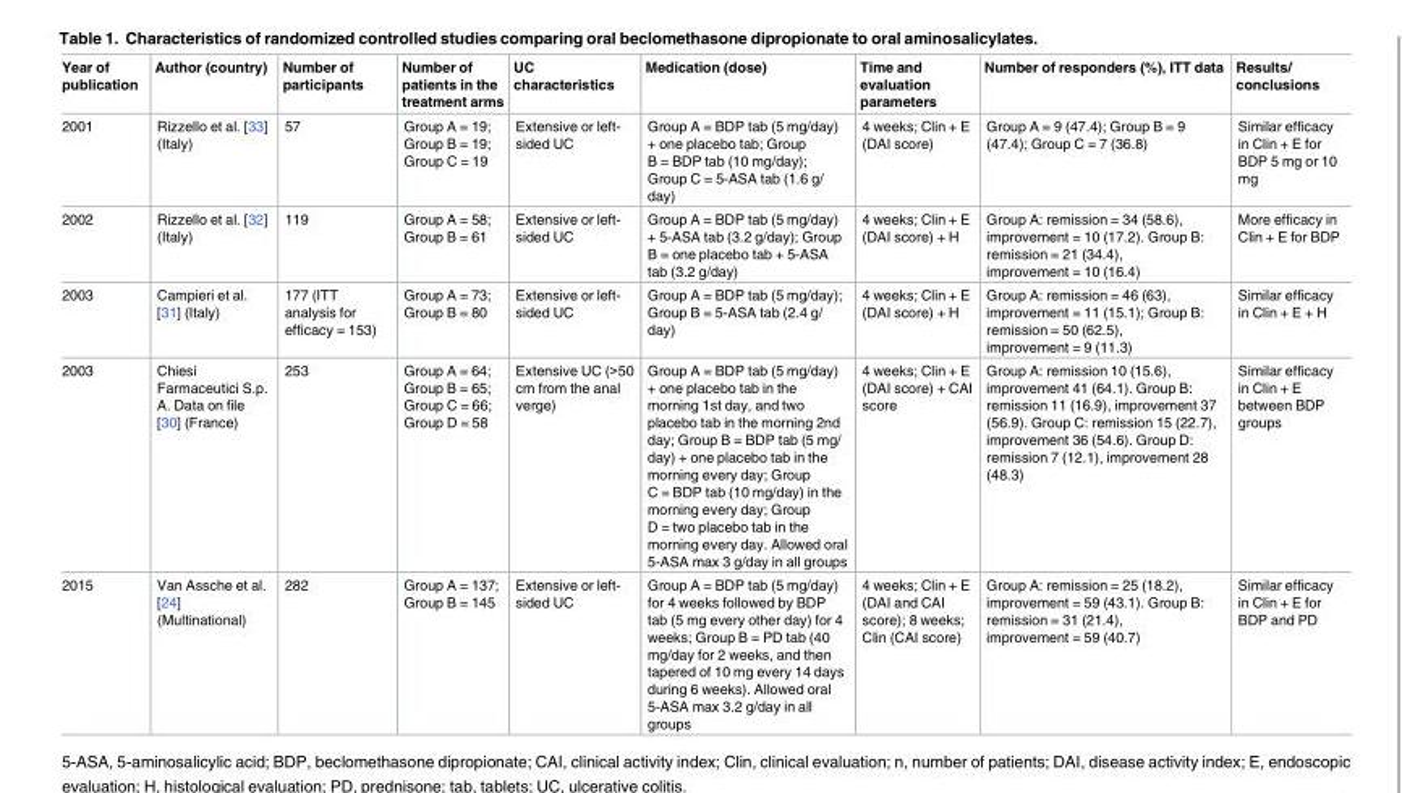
<table><thead><tr><td>Year of publication</td><td>Author (country)</td><td>Number of participants</td><td>Number of patients in the treatment arms</td><td>UC characteristics</td><td>Medication (dose)</td><td>Time and evaluation parameters</td><td>Number of responders (%), ITT data</td><td>Results/ conclusions</td></tr></thead><tbody><tr><td>2001</td><td>Rizzello et al. [33] (Italy)</td><td>57</td><td>Group A = 19; Group B = 19; Group C = 19</td><td>Extensive or left- sided UC</td><td>Group A = BDP tab (5 mg/day) + one placebo tab; Group B = BDP tab (10 mg/day); Group C = 5-ASA tab (1.6 g/ day)</td><td>4 weeks; Clin + E (DAI score)</td><td>Group A = 9 (47.4); Group B = 9 (47.4); Group C = 7 (36.8)</td><td>Similar efficacy in Clin + E for BDP 5 mg or 10 mg</td></tr><tr><td>2002</td><td>Rizzello et al. [32] (Italy)</td><td>119</td><td>Group A = 58; Group B = 61</td><td>Extensive or left- sided UC</td><td>Group A = BDP tab (5 mg/day) + 5-ASA tab (3.2 g/day); Group B = one placebo tab + 5-ASA tab (3.2 g/day)</td><td>4 weeks; Clin + E (DAI score) + H</td><td>Group A: remission = 34 (58.6), improvement = 10 (17.2). Group B: remission = 21 (34.4), improvement = 10 (16.4)</td><td>More efficacy in Clin + E for BDP</td></tr><tr><td>2003</td><td>Campieri et al. [31] (Italy)</td><td>177 (ITT analysis for efficacy = 153)</td><td>Group A = 73; Group B = 80</td><td>Extensive or left- sided UC</td><td>Group A = BDP tab (5 mg/day); Group B = 5-ASA tab (2.4 g/ day)</td><td>4 weeks; Clin + E (DAI score) + H</td><td>Group A: remission = 46 (63), improvement = 11 (15.1); Group B: remission = 50 (62.5), improvement = 9 (11.3)</td><td>Similar efficacy in Clin + E + H</td></tr><tr><td>2003</td><td>Chiesi Farmaceutici S.p. A. Data on file [30] (France)</td><td>253</td><td>Group A = 64; Group B = 65; Group C = 66; Group D = 58</td><td>Extensive UC (&gt;50 cm from the anal verge)</td><td>Group A = BDP tab (5 mg/day) + one placebo tab in the morning 1st day, and two placebo tab in the morning 2nd day; Group B = BDP tab (5 mg/ day) + one placebo tab in the morning every day; Group C = BDP tab (10 mg/day) in the morning every day; Group D = two placebo tab in the morning every day. Allowed oral 5-ASA max 3 g/day in all groups</td><td>4 weeks; Clin + E (DAI score) + CAI score</td><td>Group A: remission 10 (15.6), improvement 41 (64.1). Group B: remission 11 (16.9), improvement 37 (56.9). Group C: remission 15 (22.7), improvement 36 (54.6). Group D: remission 7 (12.1), improvement 28 (48.3)</td><td>Similar efficacy in Clin + E between BDP groups</td></tr><tr><td>2015</td><td>Van Assche et al. [24] (Multinational)</td><td>282</td><td>Group A = 137; Group B = 145</td><td>Extensive or left- sided UC</td><td>Group A = BDP tab (5 mg/day) for 4 weeks followed by BDP tab (5 mg every other day) for 4 weeks; Group B = PD tab (40 mg/day for 2 weeks, and then tapered of 10 mg every 14 days during 6 weeks). Allowed oral 5-ASA max 3.2 g/day in all groups</td><td>4 weeks; Clin + E (DAI and CAI score); 8 weeks; Clin (CAI score)</td><td>Group A: remission = 25 (18.2), improvement = 59 (43.1). Group B: remission = 31 (21.4), improvement = 59 (40.7)</td><td>Similar efficacy in Clin + E for BDP and PD</td></tr></tbody></table>